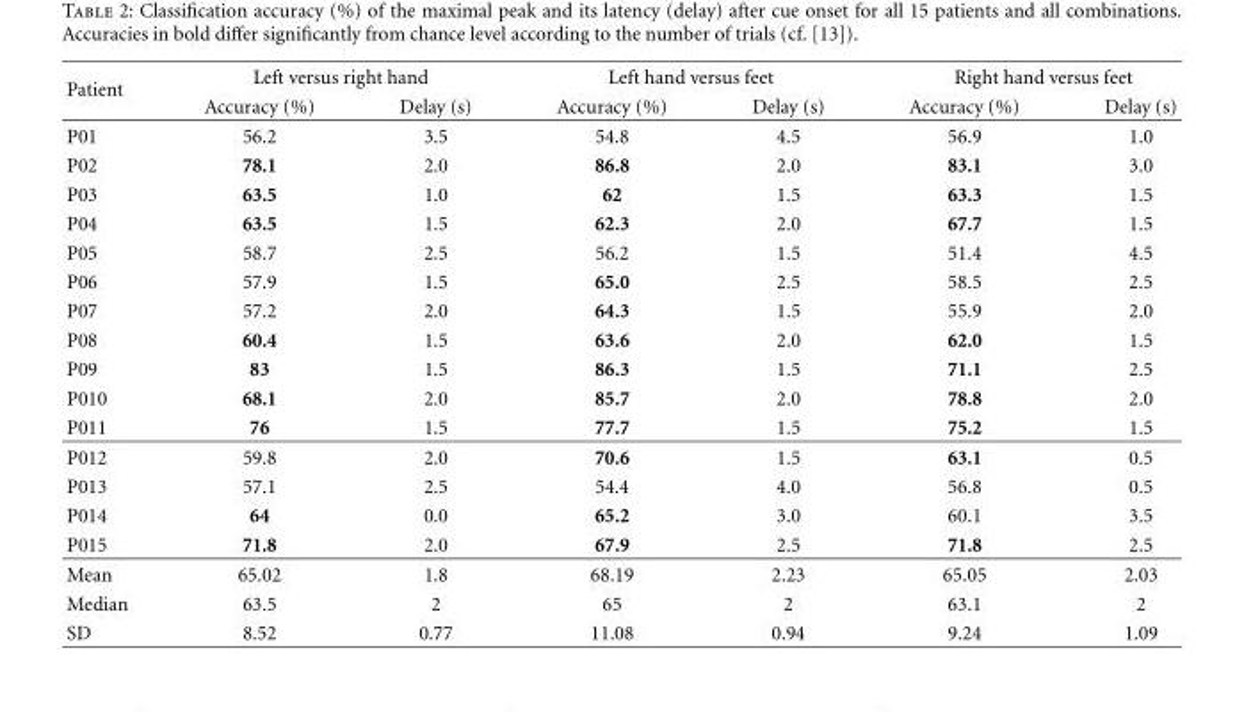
<table><thead><tr><td rowspan="2">Patient</td><td colspan="2">Left versus right hand</td><td colspan="2">Left hand versus feet</td><td colspan="2">Right hand versus feet</td></tr><tr><td>Accuracy (%)</td><td>Delay (s)</td><td>Accuracy (%)</td><td>Delay (s)</td><td>Accuracy (%)</td><td>Delay (s)</td></tr></thead><tbody><tr><td>P01</td><td>56.2</td><td>3.5</td><td>54.8</td><td>4.5</td><td>56.9</td><td>1.0</td></tr><tr><td>P02</td><td>78.1</td><td>2.0</td><td>86.8</td><td>2.0</td><td>83.1</td><td>3.0</td></tr><tr><td>P03</td><td>63.5</td><td>1.0</td><td>62</td><td>1.5</td><td>63.3</td><td>1.5</td></tr><tr><td>P04</td><td>63.5</td><td>1.5</td><td>62.3</td><td>2.0</td><td>67.7</td><td>1.5</td></tr><tr><td>P05</td><td>58.7</td><td>2.5</td><td>56.2</td><td>1.5</td><td>51.4</td><td>4.5</td></tr><tr><td>P06</td><td>57.9</td><td>1.5</td><td>65.0</td><td>2.5</td><td>58.5</td><td>2.5</td></tr><tr><td>P07</td><td>57.2</td><td>2.0</td><td>64.3</td><td>1.5</td><td>55.9</td><td>2.0</td></tr><tr><td>P08</td><td>60.4</td><td>1.5</td><td>63.6</td><td>2.0</td><td>62.0</td><td>1.5</td></tr><tr><td>P09</td><td>83</td><td>1.5</td><td>86.3</td><td>1.5</td><td>71.1</td><td>2.5</td></tr><tr><td>P010</td><td>68.1</td><td>2.0</td><td>85.7</td><td>2.0</td><td>78.8</td><td>2.0</td></tr><tr><td>P011</td><td>76</td><td>1.5</td><td>77.7</td><td>1.5</td><td>75.2</td><td>1.5</td></tr><tr><td>P012</td><td>59.8</td><td>2.0</td><td>70.6</td><td>1.5</td><td>63.1</td><td>0.5</td></tr><tr><td>P013</td><td>57.1</td><td>2.5</td><td>54.4</td><td>4.0</td><td>56.8</td><td>0.5</td></tr><tr><td>P014</td><td>64</td><td>0.0</td><td>65.2</td><td>3.0</td><td>60.1</td><td>3.5</td></tr><tr><td>P015</td><td>71.8</td><td>2.0</td><td>67.9</td><td>2.5</td><td>71.8</td><td>2.5</td></tr><tr><td>Mean</td><td>65.02</td><td>1.8</td><td>68.19</td><td>2.23</td><td>65.05</td><td>2.03</td></tr><tr><td>Median</td><td>63.5</td><td>2</td><td>65</td><td>2</td><td>63.1</td><td>2</td></tr><tr><td>SD</td><td>8.52</td><td>0.77</td><td>11.08</td><td>0.94</td><td>9.24</td><td>1.09</td></tr></tbody></table>